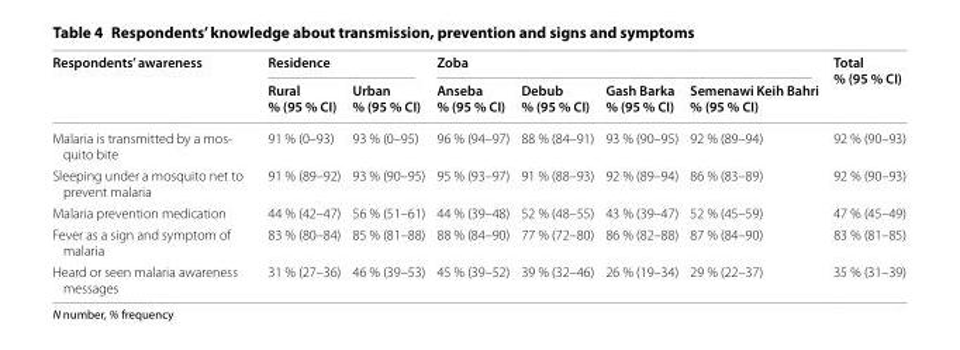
<table><thead><tr><td rowspan="2">Respondents’ awareness</td><td colspan="2">Residence</td><td colspan="4">Zoba</td><td rowspan="2">Total % (95 % CI)</td></tr><tr><td>Rural % (95 % CI)</td><td>Urban % (95 % CI)</td><td>Anseba % (95 % CI)</td><td>Debub % (95 % CI)</td><td>Gash Barka % (95 % CI)</td><td>Semenawi Keih Bahri % (95 % CI)</td></tr></thead><tbody><tr><td>Malaria is transmitted by a mos- quito bite</td><td>91 % (0–93)</td><td>93 % (0–95)</td><td>96 % (94–97)</td><td>88 % (84–91)</td><td>93 % (90–95)</td><td>92 % (89–94)</td><td>92 % (90–93)</td></tr><tr><td>Sleeping under a mosquito net to prevent malaria</td><td>91 % (89–92)</td><td>93 % (90–95)</td><td>95 % (93–97)</td><td>91 % (88–93)</td><td>92 % (89–94)</td><td>86 % (83–89)</td><td>92 % (90–93)</td></tr><tr><td>Malaria prevention medication</td><td>44 % (42–47)</td><td>56 % (51–61)</td><td>44 % (39–48)</td><td>52 % (48–55)</td><td>43 % (39–47)</td><td>52 % (45–59)</td><td>47 % (45–49)</td></tr><tr><td>Fever as a sign and symptom of malaria</td><td>83 % (80–84)</td><td>85 % (81–88)</td><td>88 % (84–90)</td><td>77 % (72–80)</td><td>86 % (82–88)</td><td>87 % (84–90)</td><td>83 % (81–85)</td></tr><tr><td>Heard or seen malaria awareness messages</td><td>31 % (27–36)</td><td>46 % (39–53)</td><td>45 % (39–52)</td><td>39 % (32–46)</td><td>26 % (19–34)</td><td>29 % (22–37)</td><td>35 % (31–39)</td></tr></tbody></table>